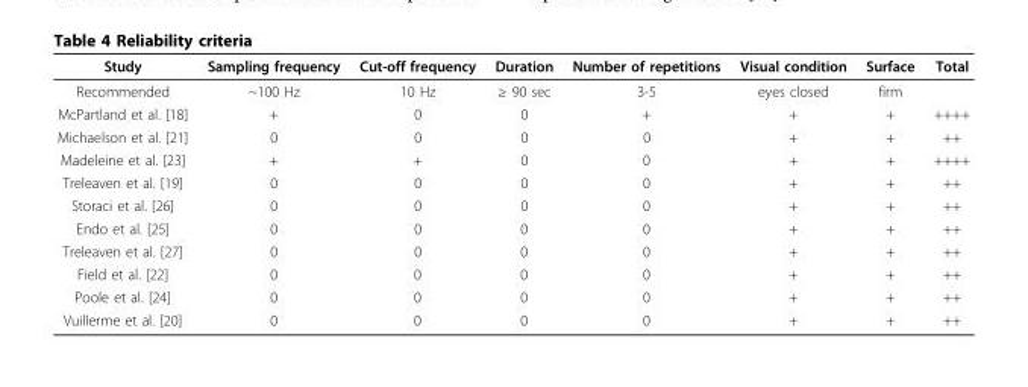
<table><thead><tr><td>Study</td><td>Sampling frequency</td><td>Cut-off frequency</td><td>Duration</td><td>Number of repetitions</td><td>Visual condition</td><td>Surface</td><td>Total</td></tr></thead><tbody><tr><td>Recommended</td><td>~100 Hz</td><td>10 Hz</td><td>≥ 90 sec</td><td>3-5</td><td>eyes closed</td><td>firm</td><td></td></tr><tr><td>McPartland et al. [18]</td><td>+</td><td>0</td><td>0</td><td>+</td><td>+</td><td>+</td><td>++++</td></tr><tr><td>Michaelson et al. [21]</td><td>0</td><td>0</td><td>0</td><td>0</td><td>+</td><td>+</td><td>++</td></tr><tr><td>Madeleine et al. [23]</td><td>+</td><td>+</td><td>0</td><td>0</td><td>+</td><td>+</td><td>++++</td></tr><tr><td>Treleaven et al. [19]</td><td>0</td><td>0</td><td>0</td><td>0</td><td>+</td><td>+</td><td>++</td></tr><tr><td>Storaci et al. [26]</td><td>0</td><td>0</td><td>0</td><td>0</td><td>+</td><td>+</td><td>++</td></tr><tr><td>Endo et al. [25]</td><td>0</td><td>0</td><td>0</td><td>0</td><td>+</td><td>+</td><td>++</td></tr><tr><td>Treleaven et al. [27]</td><td>0</td><td>0</td><td>0</td><td>0</td><td>+</td><td>+</td><td>++</td></tr><tr><td>Field et al. [22]</td><td>0</td><td>0</td><td>0</td><td>0</td><td>+</td><td>+</td><td>++</td></tr><tr><td>Poole et al. [24]</td><td>0</td><td>0</td><td>0</td><td>0</td><td>+</td><td>+</td><td>++</td></tr><tr><td>Vuillerme et al. [20]</td><td>0</td><td>0</td><td>0</td><td>0</td><td>+</td><td>+</td><td>++</td></tr></tbody></table>